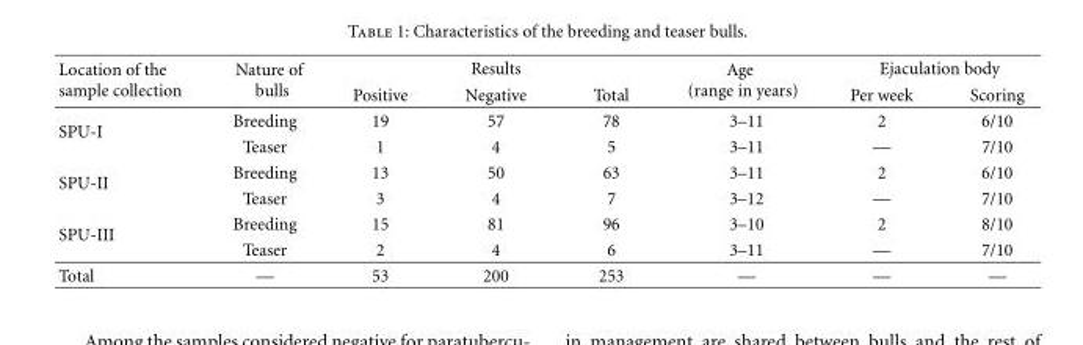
<table><thead><tr><td rowspan="2">Location of the sample collection</td><td rowspan="2">Nature of bulls</td><td colspan="3">Results</td><td rowspan="2">Age (range in years)</td><td colspan="2">Ejaculation body</td></tr><tr><td>Positive</td><td>Negative</td><td>Total</td><td>Per week</td><td>Scoring</td></tr></thead><tbody><tr><td rowspan="2">SPU-I</td><td>Breeding</td><td>19</td><td>57</td><td>78</td><td>3–11</td><td>2</td><td>6/10</td></tr><tr><td>Teaser</td><td>1</td><td>4</td><td>5</td><td>3–11</td><td>—</td><td>7/10</td></tr><tr><td rowspan="2">SPU-II</td><td>Breeding</td><td>13</td><td>50</td><td>63</td><td>3–11</td><td>2</td><td>6/10</td></tr><tr><td>Teaser</td><td>3</td><td>4</td><td>7</td><td>3–12</td><td>—</td><td>7/10</td></tr><tr><td rowspan="2">SPU-III</td><td>Breeding</td><td>15</td><td>81</td><td>96</td><td>3–10</td><td>2</td><td>8/10</td></tr><tr><td>Teaser</td><td>2</td><td>4</td><td>6</td><td>3–11</td><td>—</td><td>7/10</td></tr><tr><td>Total</td><td>—</td><td>53</td><td>200</td><td>253</td><td>—</td><td>—</td><td>—</td></tr></tbody></table>